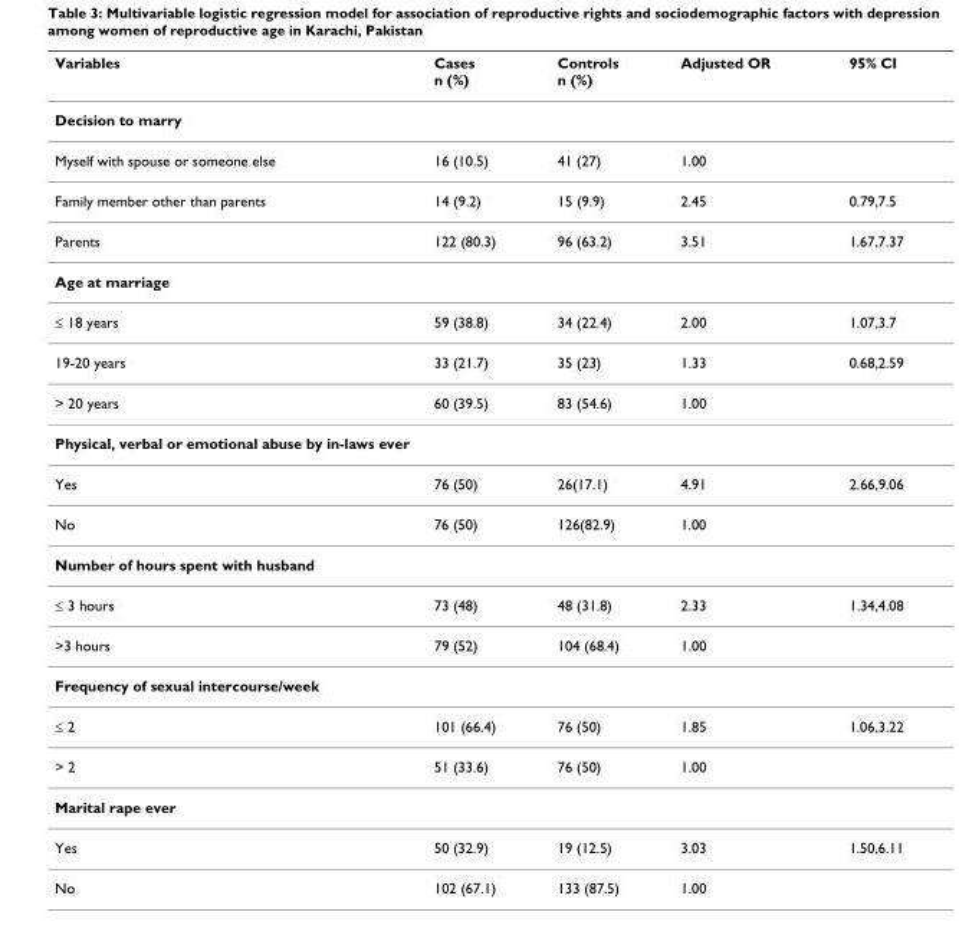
<table><thead><tr><td>Variables</td><td>Cases n (%)</td><td>Controls n (%)</td><td>Adjusted OR</td><td>95% CI</td></tr></thead><tbody><tr><td colspan="5">Decision to marry</td></tr><tr><td>Myself with spouse or someone else</td><td>16 (10.5)</td><td>41 (27)</td><td>1.00</td><td></td></tr><tr><td>Family member other than parents</td><td>14 (9.2)</td><td>15 (9.9)</td><td>2.45</td><td>0.79,7.5</td></tr><tr><td>Parents</td><td>122 (80.3)</td><td>96 (63.2)</td><td>3.51</td><td>1.67,7.37</td></tr><tr><td colspan="5">Age at marriage</td></tr><tr><td>≤ 18 years</td><td>59 (38.8)</td><td>34 (22.4)</td><td>2.00</td><td>1.07,3.7</td></tr><tr><td>19-20 years</td><td>33 (21.7)</td><td>35 (23)</td><td>1.33</td><td>0.68,2.59</td></tr><tr><td>&gt; 20 years</td><td>60 (39.5)</td><td>83 (54.6)</td><td>1.00</td><td></td></tr><tr><td colspan="5">Physical, verbal or emotional abuse by in-laws ever</td></tr><tr><td>Yes</td><td>76 (50)</td><td>26(17.1)</td><td>4.91</td><td>2.66,9.06</td></tr><tr><td>No</td><td>76 (50)</td><td>126(82.9)</td><td>1.00</td><td></td></tr><tr><td colspan="5">Number of hours spent with husband</td></tr><tr><td>≤ 3 hours</td><td>73 (48)</td><td>48 (31.8)</td><td>2.33</td><td>1.34,4.08</td></tr><tr><td>&gt;3 hours</td><td>79 (52)</td><td>104 (68.4)</td><td>1.00</td><td></td></tr><tr><td colspan="5">Frequency of sexual intercourse/week</td></tr><tr><td>≤ 2</td><td>101 (66.4)</td><td>76 (50)</td><td>1.85</td><td>1.06,3.22</td></tr><tr><td>&gt; 2</td><td>51 (33.6)</td><td>76 (50)</td><td>1.00</td><td></td></tr><tr><td colspan="5">Marital rape ever</td></tr><tr><td>Yes</td><td>50 (32.9)</td><td>19 (12.5)</td><td>3.03</td><td>1.50,6.11</td></tr><tr><td>No</td><td>102 (67.1)</td><td>133 (87.5)</td><td>1.00</td><td></td></tr></tbody></table>